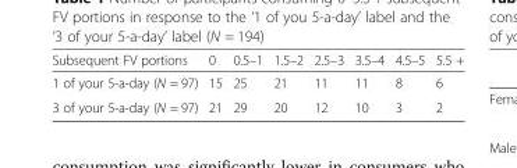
<table><thead><tr><td>Subsequent FV portions</td><td>0</td><td>0.5–1</td><td>1.5–2</td><td>2.5–3</td><td>3.5–4</td><td>4.5–5</td><td>5.5 +</td></tr></thead><tbody><tr><td>1 of your 5-a-day (N = 97)</td><td>15</td><td>25</td><td>21</td><td>11</td><td>11</td><td>8</td><td>6</td></tr><tr><td>3 of your 5-a-day (N = 97)</td><td>21</td><td>29</td><td>20</td><td>12</td><td>10</td><td>3</td><td>2</td></tr></tbody></table>